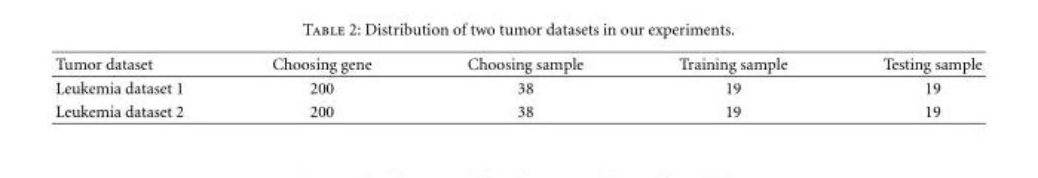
<table><thead><tr><td>Tumor dataset</td><td>Choosing gene</td><td>Choosing sample</td><td>Training sample</td><td>Testing sample</td></tr></thead><tbody><tr><td>Leukemia dataset 1</td><td>200</td><td>38</td><td>19</td><td>19</td></tr><tr><td>Leukemia dataset 2</td><td>200</td><td>38</td><td>19</td><td>19</td></tr></tbody></table>